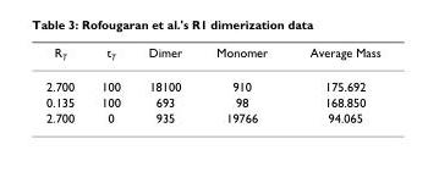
<table><thead><tr><td>R<sub>T</sub></td><td>t<sub>T</sub></td><td>Dimer</td><td>Monomer</td><td>Average Mass</td></tr></thead><tbody><tr><td>2.700</td><td>100</td><td>18100</td><td>910</td><td>175.692</td></tr><tr><td>0.135</td><td>100</td><td>693</td><td>98</td><td>168.850</td></tr><tr><td>2.700</td><td>0</td><td>935</td><td>19766</td><td>94.065</td></tr></tbody></table>